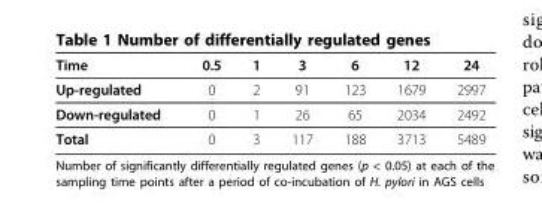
<table><thead><tr><td>Time</td><td>0.5</td><td>1</td><td>3</td><td>6</td><td>12</td><td>24</td></tr></thead><tbody><tr><td>Up-regulated</td><td>0</td><td>2</td><td>91</td><td>123</td><td>1679</td><td>2997</td></tr><tr><td>Down-regulated</td><td>0</td><td>1</td><td>26</td><td>65</td><td>2034</td><td>2492</td></tr><tr><td>Total</td><td>0</td><td>3</td><td>117</td><td>188</td><td>3713</td><td>5489</td></tr></tbody></table>